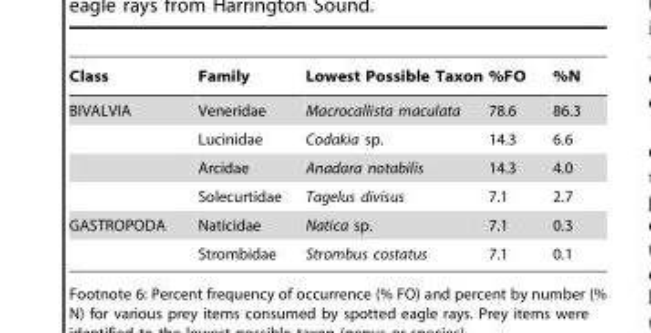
<table><thead><tr><td>Class</td><td>Family</td><td>Lowest Possible Taxon</td><td>%FO</td><td>%N</td></tr></thead><tbody><tr><td rowspan="4">BIVALVIA</td><td>Veneridae</td><td>Macrocallista maculata</td><td>78.6</td><td>86.3</td></tr><tr><td>Lucinidae</td><td>Codakia sp.</td><td>14.3</td><td>6.6</td></tr><tr><td>Arcidae</td><td>Anadara notabilis</td><td>14.3</td><td>4.0</td></tr><tr><td>Solecurtidae</td><td>Tagelus divisus</td><td>7.1</td><td>2.7</td></tr><tr><td rowspan="2">GASTROPODA</td><td>Naticidae</td><td>Natica sp.</td><td>7.1</td><td>0.3</td></tr><tr><td>Strombidae</td><td>Strombus costatus</td><td>7.1</td><td>0.1</td></tr></tbody></table>